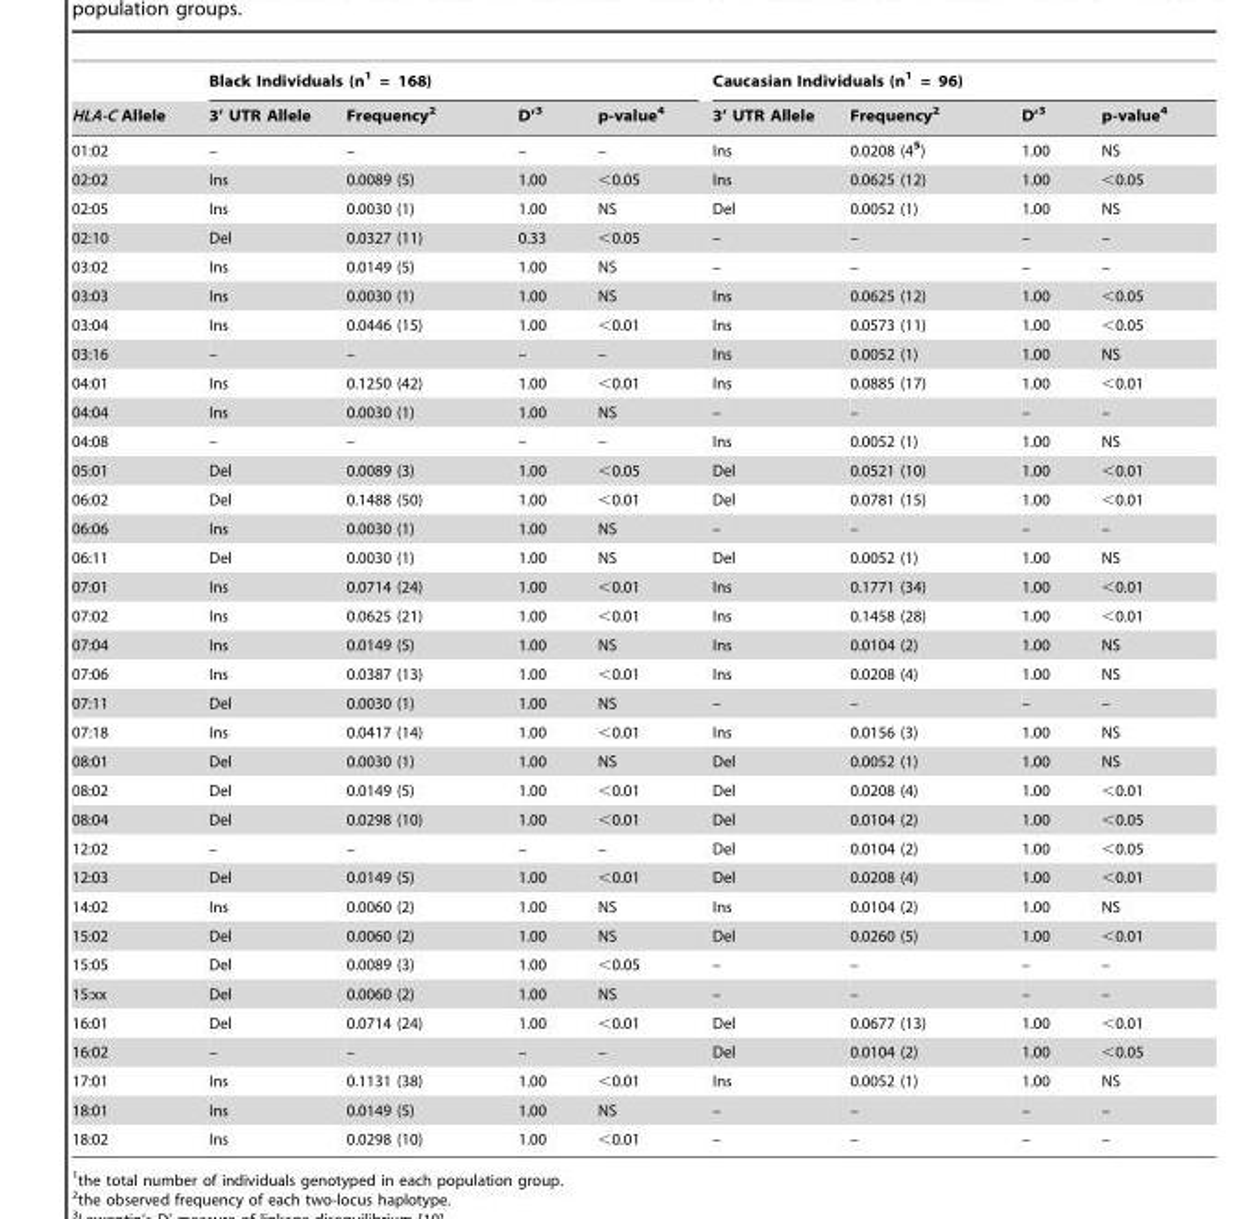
<table><thead><tr><td rowspan="2">HLA-C Allele</td><td colspan="4">Black Individuals (n<sup>1</sup> = 168)</td><td colspan="4">Caucasian Individuals (n<sup>1</sup> = 96)</td></tr><tr><td>3’ UTR Allele</td><td>Frequency<sup>2</sup></td><td>D’<sup>3</sup></td><td>p-value<sup>4</sup></td><td>3’ UTR Allele</td><td>Frequency<sup>2</sup></td><td>D’<sup>3</sup></td><td>p-value<sup>4</sup></td></tr></thead><tbody><tr><td>01:02</td><td>–</td><td>–</td><td>–</td><td>–</td><td>Ins</td><td>0.0208 (4<sup>5</sup>)</td><td>1.00</td><td>NS</td></tr><tr><td>02:02</td><td>Ins</td><td>0.0089 (5)</td><td>1.00</td><td>&lt;0.05</td><td>Ins</td><td>0.0625 (12)</td><td>1.00</td><td>&lt;0.05</td></tr><tr><td>02:05</td><td>Ins</td><td>0.0030 (1)</td><td>1.00</td><td>NS</td><td>Del</td><td>0.0052 (1)</td><td>1.00</td><td>NS</td></tr><tr><td>02:10</td><td>Del</td><td>0.0327 (11)</td><td>0.33</td><td>&lt;0.05</td><td>–</td><td>–</td><td>–</td><td>–</td></tr><tr><td>03:02</td><td>Ins</td><td>0.0149 (5)</td><td>1.00</td><td>NS</td><td>–</td><td>–</td><td>–</td><td>–</td></tr><tr><td>03:03</td><td>Ins</td><td>0.0030 (1)</td><td>1.00</td><td>NS</td><td>Ins</td><td>0.0625 (12)</td><td>1.00</td><td>&lt;0.05</td></tr><tr><td>03:04</td><td>Ins</td><td>0.0446 (15)</td><td>1.00</td><td>&lt;0.01</td><td>Ins</td><td>0.0573 (11)</td><td>1.00</td><td>&lt;0.05</td></tr><tr><td>03:16</td><td>–</td><td>–</td><td>–</td><td>–</td><td>Ins</td><td>0.0052 (1)</td><td>1.00</td><td>NS</td></tr><tr><td>04:01</td><td>Ins</td><td>0.1250 (42)</td><td>1.00</td><td>&lt;0.01</td><td>Ins</td><td>0.0885 (17)</td><td>1.00</td><td>&lt;0.01</td></tr><tr><td>04:04</td><td>Ins</td><td>0.0030 (1)</td><td>1.00</td><td>NS</td><td>–</td><td>–</td><td>–</td><td>–</td></tr><tr><td>04:08</td><td>–</td><td>–</td><td>–</td><td>–</td><td>Ins</td><td>0.0052 (1)</td><td>1.00</td><td>NS</td></tr><tr><td>05:01</td><td>Del</td><td>0.0089 (3)</td><td>1.00</td><td>&lt;0.05</td><td>Del</td><td>0.0521 (10)</td><td>1.00</td><td>&lt;0.01</td></tr><tr><td>06:02</td><td>Del</td><td>0.1488 (50)</td><td>1.00</td><td>&lt;0.01</td><td>Del</td><td>0.0781 (15)</td><td>1.00</td><td>&lt;0.01</td></tr><tr><td>06:06</td><td>Ins</td><td>0.0030 (1)</td><td>1.00</td><td>NS</td><td>–</td><td>–</td><td>–</td><td>–</td></tr><tr><td>06:11</td><td>Del</td><td>0.0030 (1)</td><td>1.00</td><td>NS</td><td>Del</td><td>0.0052 (1)</td><td>1.00</td><td>NS</td></tr><tr><td>07:01</td><td>Ins</td><td>0.0714 (24)</td><td>1.00</td><td>&lt;0.01</td><td>Ins</td><td>0.1771 (34)</td><td>1.00</td><td>&lt;0.01</td></tr><tr><td>07:02</td><td>Ins</td><td>0.0625 (21)</td><td>1.00</td><td>&lt;0.01</td><td>Ins</td><td>0.1458 (28)</td><td>1.00</td><td>&lt;0.01</td></tr><tr><td>07:04</td><td>Ins</td><td>0.0149 (5)</td><td>1.00</td><td>NS</td><td>Ins</td><td>0.0104 (2)</td><td>1.00</td><td>NS</td></tr><tr><td>07:06</td><td>Ins</td><td>0.0387 (13)</td><td>1.00</td><td>&lt;0.01</td><td>Ins</td><td>0.0208 (4)</td><td>1.00</td><td>NS</td></tr><tr><td>07:11</td><td>Del</td><td>0.0030 (1)</td><td>1.00</td><td>NS</td><td>–</td><td>–</td><td>–</td><td>–</td></tr><tr><td>07:18</td><td>Ins</td><td>0.0417 (14)</td><td>1.00</td><td>&lt;0.01</td><td>Ins</td><td>0.0156 (3)</td><td>1.00</td><td>NS</td></tr><tr><td>08:01</td><td>Del</td><td>0.0030 (1)</td><td>1.00</td><td>NS</td><td>Del</td><td>0.0052 (1)</td><td>1.00</td><td>NS</td></tr><tr><td>08:02</td><td>Del</td><td>0.0149 (5)</td><td>1.00</td><td>&lt;0.01</td><td>Del</td><td>0.0208 (4)</td><td>1.00</td><td>&lt;0.01</td></tr><tr><td>08:04</td><td>Del</td><td>0.0298 (10)</td><td>1.00</td><td>&lt;0.01</td><td>Del</td><td>0.0104 (2)</td><td>1.00</td><td>&lt;0.05</td></tr><tr><td>12:02</td><td>–</td><td>–</td><td>–</td><td>–</td><td>Del</td><td>0.0104 (2)</td><td>1.00</td><td>&lt;0.05</td></tr><tr><td>12:03</td><td>Del</td><td>0.0149 (5)</td><td>1.00</td><td>&lt;0.01</td><td>Del</td><td>0.0208 (4)</td><td>1.00</td><td>&lt;0.01</td></tr><tr><td>14:02</td><td>Ins</td><td>0.0060 (2)</td><td>1.00</td><td>NS</td><td>Ins</td><td>0.0104 (2)</td><td>1.00</td><td>NS</td></tr><tr><td>15:02</td><td>Del</td><td>0.0060 (2)</td><td>1.00</td><td>NS</td><td>Del</td><td>0.0260 (5)</td><td>1.00</td><td>&lt;0.01</td></tr><tr><td>15:05</td><td>Del</td><td>0.0089 (3)</td><td>1.00</td><td>&lt;0.05</td><td>–</td><td>–</td><td>–</td><td>–</td></tr><tr><td>15:xx</td><td>Del</td><td>0.0060 (2)</td><td>1.00</td><td>NS</td><td>–</td><td>–</td><td>–</td><td>–</td></tr><tr><td>16:01</td><td>Del</td><td>0.0714 (24)</td><td>1.00</td><td>&lt;0.01</td><td>Del</td><td>0.0677 (13)</td><td>1.00</td><td>&lt;0.01</td></tr><tr><td>16:02</td><td>–</td><td>–</td><td>–</td><td>–</td><td>Del</td><td>0.0104 (2)</td><td>1.00</td><td>&lt;0.05</td></tr><tr><td>17:01</td><td>Ins</td><td>0.1131 (38)</td><td>1.00</td><td>&lt;0.01</td><td>Ins</td><td>0.0052 (1)</td><td>1.00</td><td>NS</td></tr><tr><td>18:01</td><td>Ins</td><td>0.0149 (5)</td><td>1.00</td><td>NS</td><td>–</td><td>–</td><td>–</td><td>–</td></tr><tr><td>18:02</td><td>Ins</td><td>0.0298 (10)</td><td>1.00</td><td>&lt;0.01</td><td>–</td><td>–</td><td>–</td><td>–</td></tr></tbody></table>